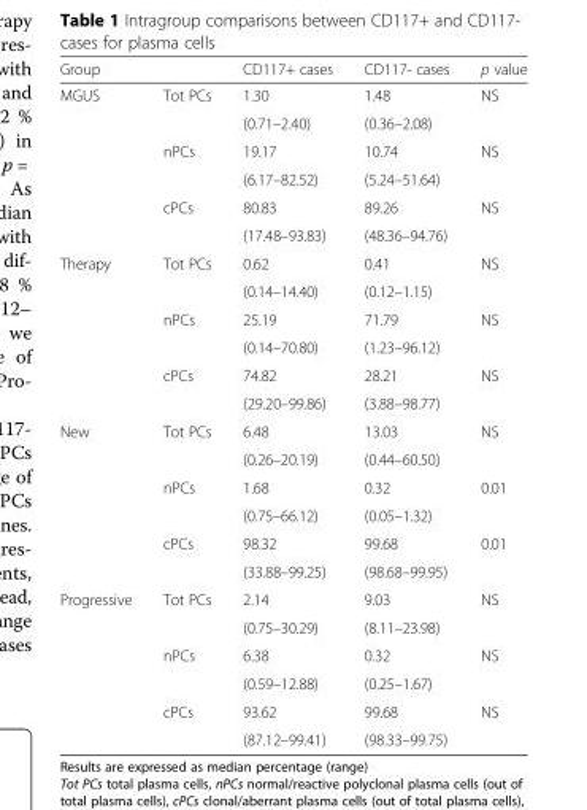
<table><thead><tr><td>Group</td><td></td><td>CD117+ cases</td><td>CD117- cases</td><td>p value</td></tr></thead><tbody><tr><td rowspan="6">MGUS</td><td>Tot PCs</td><td>1.30</td><td>1.48</td><td rowspan="2">NS</td></tr><tr><td></td><td>(0.71–2.40)</td><td>(0.36–2.08)</td></tr><tr><td>nPCs</td><td>19.17</td><td>10.74</td><td rowspan="2">NS</td></tr><tr><td></td><td>(6.17–82.52)</td><td>(5.24–51.64)</td></tr><tr><td>cPCs</td><td>80.83</td><td>89.26</td><td rowspan="2">NS</td></tr><tr><td></td><td>(17.48–93.83)</td><td>(48.36–94.76)</td></tr><tr><td rowspan="6">Therapy</td><td>Tot PCs</td><td>0.62</td><td>0.41</td><td rowspan="2">NS</td></tr><tr><td></td><td>(0.14–14.40)</td><td>(0.12–1.15)</td></tr><tr><td>nPCs</td><td>25.19</td><td>71.79</td><td rowspan="2">NS</td></tr><tr><td></td><td>(0.14–70.80)</td><td>(1.23–96.12)</td></tr><tr><td>cPCs</td><td>74.82</td><td>28.21</td><td rowspan="2">NS</td></tr><tr><td></td><td>(29.20–99.86)</td><td>(3.88–98.77)</td></tr><tr><td rowspan="6">New</td><td>Tot PCs</td><td>6.48</td><td>13.03</td><td rowspan="2">NS</td></tr><tr><td></td><td>(0.26–20.19)</td><td>(0.44–60.50)</td></tr><tr><td>nPCs</td><td>1.68</td><td>0.32</td><td rowspan="2">0.01</td></tr><tr><td></td><td>(0.75–66.12)</td><td>(0.05–1.32)</td></tr><tr><td>cPCs</td><td>98.32</td><td>99.68</td><td rowspan="2">0.01</td></tr><tr><td></td><td>(33.88–99.25)</td><td>(98.68–99.95)</td></tr><tr><td rowspan="6">Progressive</td><td>Tot PCs</td><td>2.14</td><td>9.03</td><td rowspan="2">NS</td></tr><tr><td></td><td>(0.75–30.29)</td><td>(8.11–23.98)</td></tr><tr><td>nPCs</td><td>6.38</td><td>0.32</td><td rowspan="2">NS</td></tr><tr><td></td><td>(0.59–12.88)</td><td>(0.25–1.67)</td></tr><tr><td>cPCs</td><td>93.62</td><td>99.68</td><td rowspan="2">NS</td></tr><tr><td></td><td>(87.12–99.41)</td><td>(98.33–99.75)</td></tr></tbody></table>